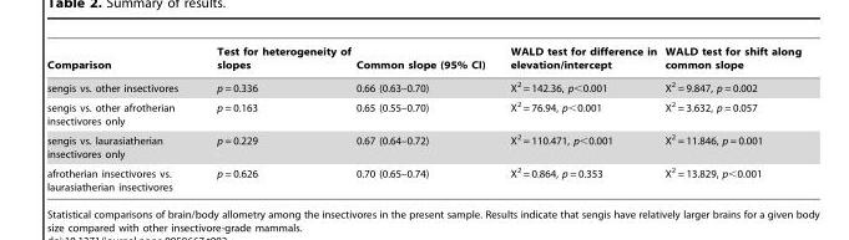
<table><thead><tr><td>Comparison</td><td>Test for heterogeneity of slopes</td><td>Common slope (95% CI)</td><td>WALD test for difference in elevation/intercept</td><td>WALD test for shift along common slope</td></tr></thead><tbody><tr><td>sengis vs. other insectivores</td><td>p = 0.336</td><td>0.66 (0.63–0.70)</td><td>X<sup>2</sup> = 142.36, p&lt;0.001</td><td>X<sup>2</sup> = 9.847, p = 0.002</td></tr><tr><td>sengis vs. other afrotherian insectivores only</td><td>p = 0.163</td><td>0.65 (0.55–0.70)</td><td>X<sup>2</sup> = 76.94, p&lt;0.001</td><td>X<sup>2</sup> = 3.632, p = 0.057</td></tr><tr><td>sengis vs. laurasiatherian insectivores only</td><td>p = 0.229</td><td>0.67 (0.64–0.72)</td><td>X<sup>2</sup> = 110.471, p&lt;0.001</td><td>X<sup>2</sup> = 11.846, p = 0.001</td></tr><tr><td>afrotherian insectivores vs. laurasiatherian insectivores</td><td>p = 0.626</td><td>0.70 (0.65–0.74)</td><td>X<sup>2</sup> = 0.864, p = 0.353</td><td>X<sup>2</sup> = 13.829, p&lt;0.001</td></tr></tbody></table>